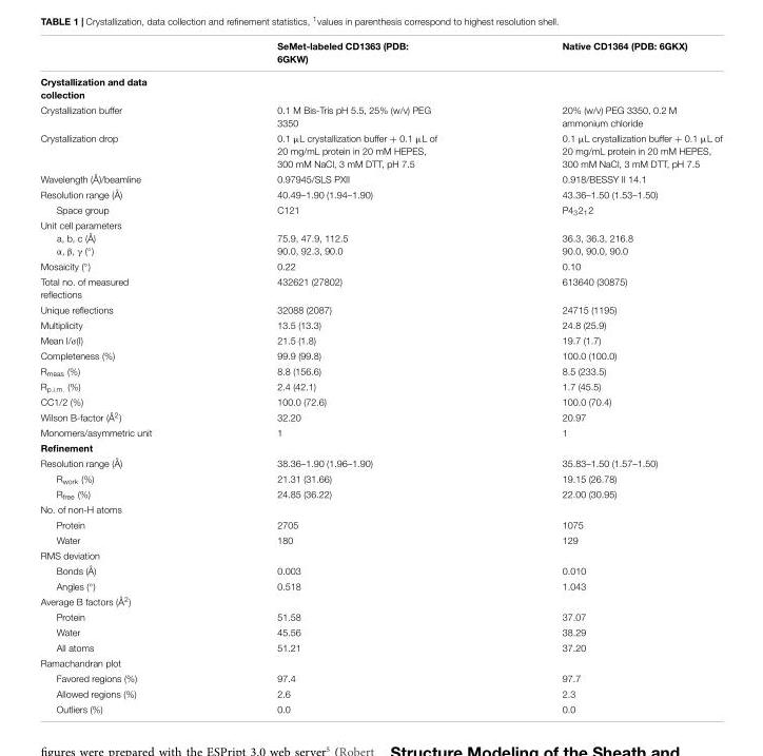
<table><thead><tr><td></td><td>SeMet-labeled CD1363 (PDB: 6GKW)</td><td>Native CD1364 (PDB: 6GKX)</td></tr></thead><tbody><tr><td colspan="3">Crystallization and data collection</td></tr><tr><td>Crystallization buffer</td><td>0.1 M Bis-Tris pH 5.5, 25% (w/v) PEG 3350</td><td>20% (w/v) PEG 3350, 0.2 M ammonium chloride</td></tr><tr><td>Crystallization drop</td><td>0.1 µL crystallization buffer + 0.1 µL of 20 mg/mL protein in 20 mM HEPES, 300 mM NaCl, 3 mM DTT, pH 7.5</td><td>0.1 µL crystallization buffer + 0.1 µL of 20 mg/mL protein in 20 mM HEPES, 300 mM NaCl, 3 mM DTT, pH 7.5</td></tr><tr><td>Wavelength (Å)/beamline</td><td>0.97945/SLS PXII</td><td>0.918/BESSY II 14.1</td></tr><tr><td>Resolution range (Å)</td><td>40.49–1.90 (1.94–1.90)</td><td>43.36–1.50 (1.53–1.50)</td></tr><tr><td>Space group</td><td>C121</td><td>P4<sub>3</sub>2<sub>1</sub>2</td></tr><tr><td>Unit cell parameters a, b, c (Å) α, β, γ (◦)</td><td>75.9, 47.9, 112.5 90.0, 92.3, 90.0</td><td>36.3, 36.3, 216.8 90.0, 90.0, 90.0</td></tr><tr><td>Mosaicity (◦)</td><td>0.22</td><td>0.10</td></tr><tr><td>Total no. of measured reflections</td><td>432621 (27802)</td><td>613640 (30875)</td></tr><tr><td>Unique reflections</td><td>32088 (2087)</td><td>24715 (1195)</td></tr><tr><td>Multiplicity</td><td>13.5 (13.3)</td><td>24.8 (25.9)</td></tr><tr><td>Mean I/σ(I)</td><td>21.5 (1.8)</td><td>19.7 (1.7)</td></tr><tr><td>Completeness (%)</td><td>99.9 (99.8)</td><td>100.0 (100.0)</td></tr><tr><td>R<sub>meas</sub> (%)</td><td>8.8 (156.6)</td><td>8.5 (233.5)</td></tr><tr><td>R<sub>p.i.m.</sub> (%)</td><td>2.4 (42.1)</td><td>1.7 (45.5)</td></tr><tr><td>CC1/2 (%)</td><td>100.0 (72.6)</td><td>100.0 (70.4)</td></tr><tr><td>Wilson B-factor (Å<sup>2</sup>)</td><td>32.20</td><td>20.97</td></tr><tr><td>Monomers/asymmetric unit</td><td>1</td><td>1</td></tr><tr><td colspan="3">Refinement</td></tr><tr><td>Resolution range (Å)</td><td>38.36–1.90 (1.96–1.90)</td><td>35.83–1.50 (1.57–1.50)</td></tr><tr><td>R<sub>work</sub> (%)</td><td>21.31 (31.66)</td><td>19.15 (26.78)</td></tr><tr><td>R<sub>free</sub> (%)</td><td>24.85 (36.22)</td><td>22.00 (30.95)</td></tr><tr><td colspan="3">No. of non-H atoms</td></tr><tr><td>Protein</td><td>2705</td><td>1075</td></tr><tr><td>Water</td><td>180</td><td>129</td></tr><tr><td colspan="3">RMS deviation</td></tr><tr><td>Bonds (Å)</td><td>0.003</td><td>0.010</td></tr><tr><td>Angles (◦)</td><td>0.518</td><td>1.043</td></tr><tr><td colspan="3">Average B factors (Å<sup>2</sup>)</td></tr><tr><td>Protein</td><td>51.58</td><td>37.07</td></tr><tr><td>Water</td><td>45.56</td><td>38.29</td></tr><tr><td>All atoms</td><td>51.21</td><td>37.20</td></tr><tr><td colspan="3">Ramachandran plot</td></tr><tr><td>Favored regions (%)</td><td>97.4</td><td>97.7</td></tr><tr><td>Allowed regions (%)</td><td>2.6</td><td>2.3</td></tr><tr><td>Outliers (%)</td><td>0.0</td><td>0.0</td></tr></tbody></table>